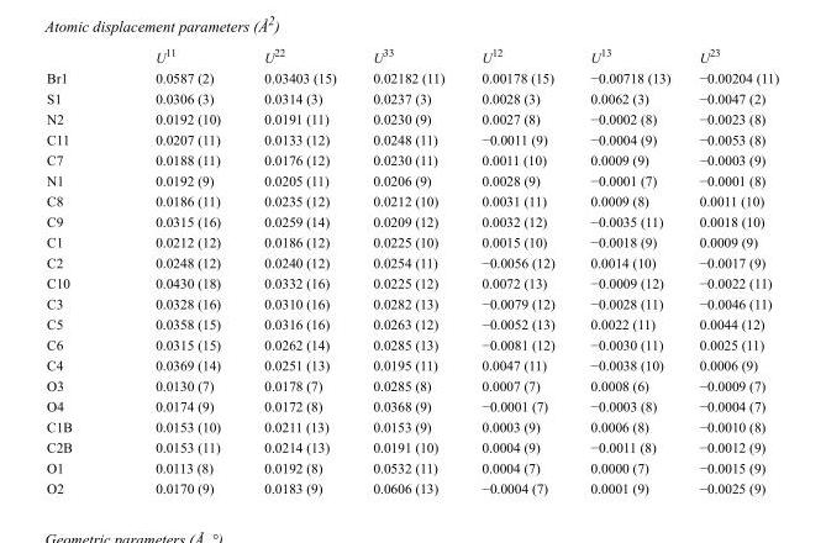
<table><thead><tr><td></td><td>U<sup>11</sup></td><td>U<sup>22</sup></td><td>U<sup>33</sup></td><td>U<sup>12</sup></td><td>U<sup>13</sup></td><td>U<sup>23</sup></td></tr></thead><tbody><tr><td>Br1</td><td>0.0587 (2)</td><td>0.03403 (15)</td><td>0.02182 (11)</td><td>0.00178 (15)</td><td>−0.00718 (13)</td><td>−0.00204 (11)</td></tr><tr><td>S1</td><td>0.0306 (3)</td><td>0.0314 (3)</td><td>0.0237 (3)</td><td>0.0028 (3)</td><td>0.0062 (3)</td><td>−0.0047 (2)</td></tr><tr><td>N2</td><td>0.0192 (10)</td><td>0.0191 (11)</td><td>0.0230 (9)</td><td>0.0027 (8)</td><td>−0.0002 (8)</td><td>−0.0023 (8)</td></tr><tr><td>C11</td><td>0.0207 (11)</td><td>0.0133 (12)</td><td>0.0248 (11)</td><td>−0.0011 (9)</td><td>−0.0004 (9)</td><td>−0.0053 (8)</td></tr><tr><td>C7</td><td>0.0188 (11)</td><td>0.0176 (12)</td><td>0.0230 (11)</td><td>0.0011 (10)</td><td>0.0009 (9)</td><td>−0.0003 (9)</td></tr><tr><td>N1</td><td>0.0192 (9)</td><td>0.0205 (11)</td><td>0.0206 (9)</td><td>0.0028 (9)</td><td>−0.0001 (7)</td><td>−0.0001 (8)</td></tr><tr><td>C8</td><td>0.0186 (11)</td><td>0.0235 (12)</td><td>0.0212 (10)</td><td>0.0031 (11)</td><td>0.0009 (8)</td><td>0.0011 (10)</td></tr><tr><td>C9</td><td>0.0315 (16)</td><td>0.0259 (14)</td><td>0.0209 (12)</td><td>0.0032 (12)</td><td>−0.0035 (11)</td><td>0.0018 (10)</td></tr><tr><td>C1</td><td>0.0212 (12)</td><td>0.0186 (12)</td><td>0.0225 (10)</td><td>0.0015 (10)</td><td>−0.0018 (9)</td><td>0.0009 (9)</td></tr><tr><td>C2</td><td>0.0248 (12)</td><td>0.0240 (12)</td><td>0.0254 (11)</td><td>−0.0056 (12)</td><td>0.0014 (10)</td><td>−0.0017 (9)</td></tr><tr><td>C10</td><td>0.0430 (18)</td><td>0.0332 (16)</td><td>0.0225 (12)</td><td>0.0072 (13)</td><td>−0.0009 (12)</td><td>−0.0022 (11)</td></tr><tr><td>C3</td><td>0.0328 (16)</td><td>0.0310 (16)</td><td>0.0282 (13)</td><td>−0.0079 (12)</td><td>−0.0028 (11)</td><td>−0.0046 (11)</td></tr><tr><td>C5</td><td>0.0358 (15)</td><td>0.0316 (16)</td><td>0.0263 (12)</td><td>−0.0052 (13)</td><td>0.0022 (11)</td><td>0.0044 (12)</td></tr><tr><td>C6</td><td>0.0315 (15)</td><td>0.0262 (14)</td><td>0.0285 (13)</td><td>−0.0081 (12)</td><td>−0.0030 (11)</td><td>0.0025 (11)</td></tr><tr><td>C4</td><td>0.0369 (14)</td><td>0.0251 (13)</td><td>0.0195 (11)</td><td>0.0047 (11)</td><td>−0.0038 (10)</td><td>0.0006 (9)</td></tr><tr><td>O3</td><td>0.0130 (7)</td><td>0.0178 (7)</td><td>0.0285 (8)</td><td>0.0007 (7)</td><td>0.0008 (6)</td><td>−0.0009 (7)</td></tr><tr><td>O4</td><td>0.0174 (9)</td><td>0.0172 (8)</td><td>0.0368 (9)</td><td>−0.0001 (7)</td><td>−0.0003 (8)</td><td>−0.0004 (7)</td></tr><tr><td>C1B</td><td>0.0153 (10)</td><td>0.0211 (13)</td><td>0.0153 (9)</td><td>0.0003 (9)</td><td>0.0006 (8)</td><td>−0.0010 (8)</td></tr><tr><td>C2B</td><td>0.0153 (11)</td><td>0.0214 (13)</td><td>0.0191 (10)</td><td>0.0004 (9)</td><td>−0.0011 (8)</td><td>−0.0012 (9)</td></tr><tr><td>O1</td><td>0.0113 (8)</td><td>0.0192 (8)</td><td>0.0532 (11)</td><td>0.0004 (7)</td><td>0.0000 (7)</td><td>−0.0015 (9)</td></tr><tr><td>O2</td><td>0.0170 (9)</td><td>0.0183 (9)</td><td>0.0606 (13)</td><td>−0.0004 (7)</td><td>0.0001 (9)</td><td>−0.0025 (9)</td></tr></tbody></table>